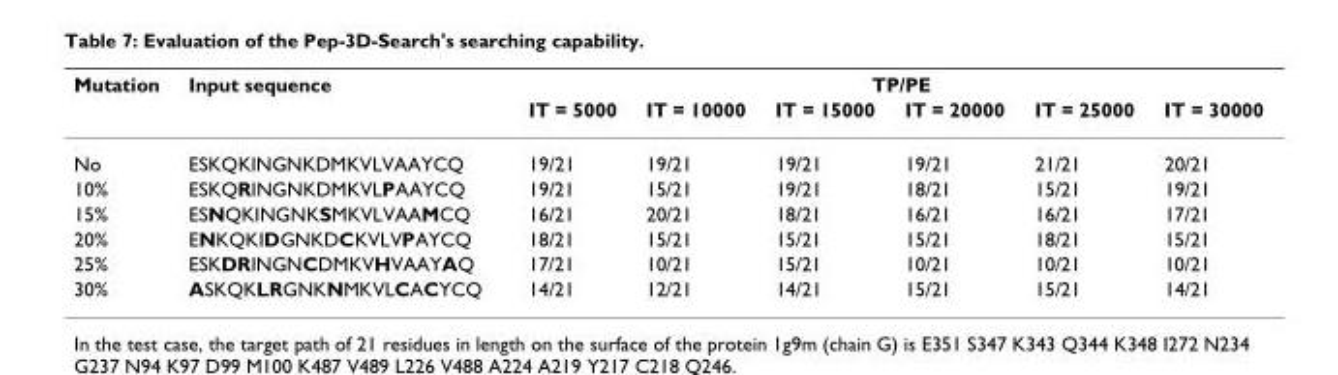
<table><thead><tr><td rowspan="2">Mutation</td><td rowspan="2">Input sequence</td><td colspan="6">TP/PE</td></tr><tr><td>IT = 5000</td><td>IT = 10000</td><td>IT = 15000</td><td>IT = 20000</td><td>IT = 25000</td><td>IT = 30000</td></tr></thead><tbody><tr><td>No</td><td>ESKQKINGNKDMKVLVAAYCQ</td><td>19/21</td><td>19/21</td><td>19/21</td><td>19/21</td><td>21/21</td><td>20/21</td></tr><tr><td>10%</td><td>ESKQRINGNKDMKVLPAAYCQ</td><td>19/21</td><td>15/21</td><td>19/21</td><td>18/21</td><td>15/21</td><td>19/21</td></tr><tr><td>15%</td><td>ESNQKINGNKSMKVLVAAMCQ</td><td>16/21</td><td>20/21</td><td>18/21</td><td>16/21</td><td>16/21</td><td>17/21</td></tr><tr><td>20%</td><td>ENKQKIDGNKDCKVLVPAYCQ</td><td>18/21</td><td>15/21</td><td>15/21</td><td>15/21</td><td>18/21</td><td>15/21</td></tr><tr><td>25%</td><td>ESKDRINGNCDMKVHVAAYAQ</td><td>17/21</td><td>10/21</td><td>15/21</td><td>10/21</td><td>10/21</td><td>10/21</td></tr><tr><td>30%</td><td>ASKQKLRGNKNMKVLCACYCQ</td><td>14/21</td><td>12/21</td><td>14/21</td><td>15/21</td><td>15/21</td><td>14/21</td></tr></tbody></table>